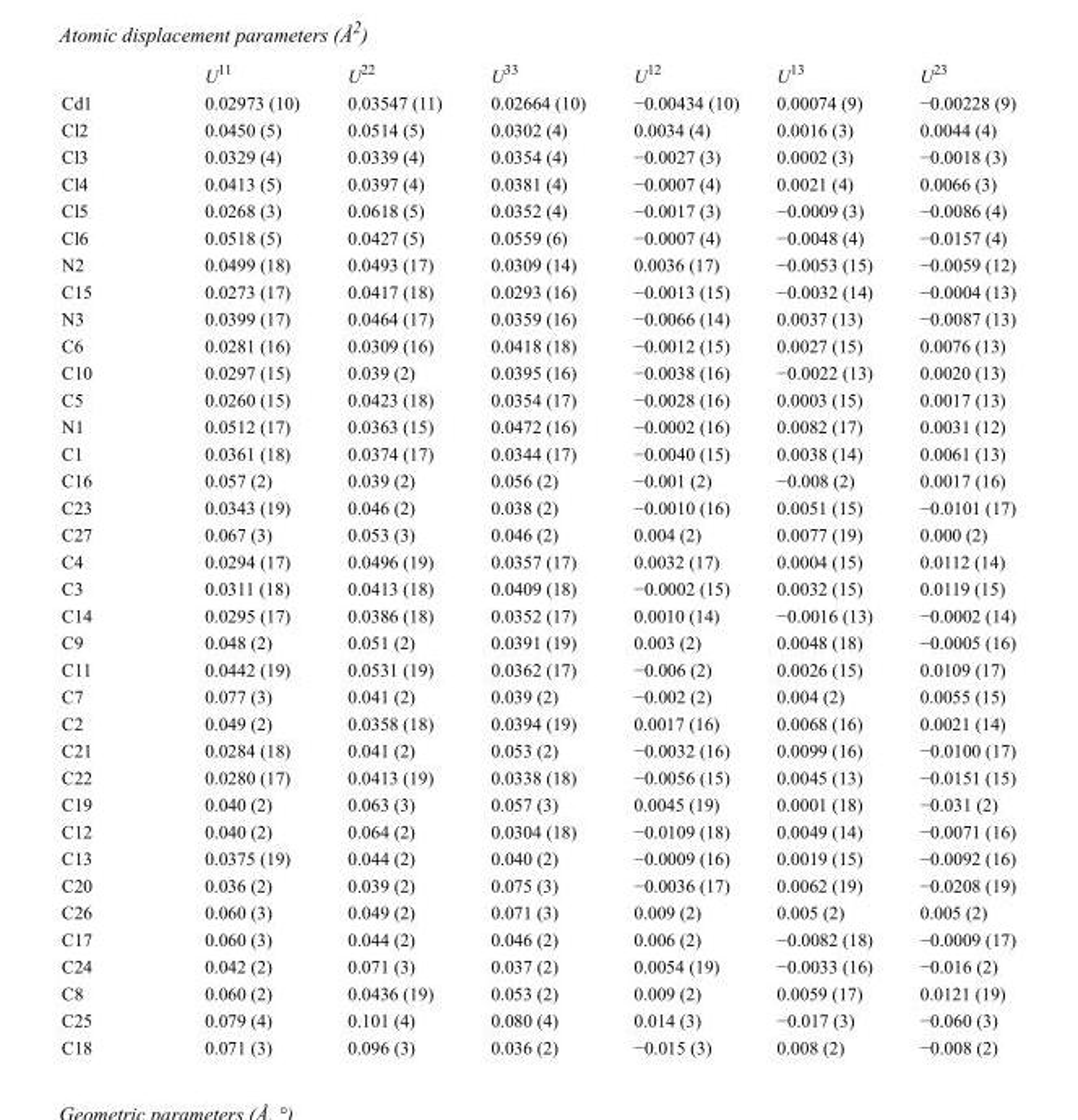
<table><thead><tr><td></td><td>U<sup>11</sup></td><td>U<sup>22</sup></td><td>U<sup>33</sup></td><td>U<sup>12</sup></td><td>U<sup>13</sup></td><td>U<sup>23</sup></td></tr></thead><tbody><tr><td>Cd1</td><td>0.02973 (10)</td><td>0.03547 (11)</td><td>0.02664 (10)</td><td>−0.00434 (10)</td><td>0.00074 (9)</td><td>−0.00228 (9)</td></tr><tr><td>Cl2</td><td>0.0450 (5)</td><td>0.0514 (5)</td><td>0.0302 (4)</td><td>0.0034 (4)</td><td>0.0016 (3)</td><td>0.0044 (4)</td></tr><tr><td>Cl3</td><td>0.0329 (4)</td><td>0.0339 (4)</td><td>0.0354 (4)</td><td>−0.0027 (3)</td><td>0.0002 (3)</td><td>−0.0018 (3)</td></tr><tr><td>Cl4</td><td>0.0413 (5)</td><td>0.0397 (4)</td><td>0.0381 (4)</td><td>−0.0007 (4)</td><td>0.0021 (4)</td><td>0.0066 (3)</td></tr><tr><td>Cl5</td><td>0.0268 (3)</td><td>0.0618 (5)</td><td>0.0352 (4)</td><td>−0.0017 (3)</td><td>−0.0009 (3)</td><td>−0.0086 (4)</td></tr><tr><td>Cl6</td><td>0.0518 (5)</td><td>0.0427 (5)</td><td>0.0559 (6)</td><td>−0.0007 (4)</td><td>−0.0048 (4)</td><td>−0.0157 (4)</td></tr><tr><td>N2</td><td>0.0499 (18)</td><td>0.0493 (17)</td><td>0.0309 (14)</td><td>0.0036 (17)</td><td>−0.0053 (15)</td><td>−0.0059 (12)</td></tr><tr><td>C15</td><td>0.0273 (17)</td><td>0.0417 (18)</td><td>0.0293 (16)</td><td>−0.0013 (15)</td><td>−0.0032 (14)</td><td>−0.0004 (13)</td></tr><tr><td>N3</td><td>0.0399 (17)</td><td>0.0464 (17)</td><td>0.0359 (16)</td><td>−0.0066 (14)</td><td>0.0037 (13)</td><td>−0.0087 (13)</td></tr><tr><td>C6</td><td>0.0281 (16)</td><td>0.0309 (16)</td><td>0.0418 (18)</td><td>−0.0012 (15)</td><td>0.0027 (15)</td><td>0.0076 (13)</td></tr><tr><td>C10</td><td>0.0297 (15)</td><td>0.039 (2)</td><td>0.0395 (16)</td><td>−0.0038 (16)</td><td>−0.0022 (13)</td><td>0.0020 (13)</td></tr><tr><td>C5</td><td>0.0260 (15)</td><td>0.0423 (18)</td><td>0.0354 (17)</td><td>−0.0028 (16)</td><td>0.0003 (15)</td><td>0.0017 (13)</td></tr><tr><td>N1</td><td>0.0512 (17)</td><td>0.0363 (15)</td><td>0.0472 (16)</td><td>−0.0002 (16)</td><td>0.0082 (17)</td><td>0.0031 (12)</td></tr><tr><td>C1</td><td>0.0361 (18)</td><td>0.0374 (17)</td><td>0.0344 (17)</td><td>−0.0040 (15)</td><td>0.0038 (14)</td><td>0.0061 (13)</td></tr><tr><td>C16</td><td>0.057 (2)</td><td>0.039 (2)</td><td>0.056 (2)</td><td>−0.001 (2)</td><td>−0.008 (2)</td><td>0.0017 (16)</td></tr><tr><td>C23</td><td>0.0343 (19)</td><td>0.046 (2)</td><td>0.038 (2)</td><td>−0.0010 (16)</td><td>0.0051 (15)</td><td>−0.0101 (17)</td></tr><tr><td>C27</td><td>0.067 (3)</td><td>0.053 (3)</td><td>0.046 (2)</td><td>0.004 (2)</td><td>0.0077 (19)</td><td>0.000 (2)</td></tr><tr><td>C4</td><td>0.0294 (17)</td><td>0.0496 (19)</td><td>0.0357 (17)</td><td>0.0032 (17)</td><td>0.0004 (15)</td><td>0.0112 (14)</td></tr><tr><td>C3</td><td>0.0311 (18)</td><td>0.0413 (18)</td><td>0.0409 (18)</td><td>−0.0002 (15)</td><td>0.0032 (15)</td><td>0.0119 (15)</td></tr><tr><td>C14</td><td>0.0295 (17)</td><td>0.0386 (18)</td><td>0.0352 (17)</td><td>0.0010 (14)</td><td>−0.0016 (13)</td><td>−0.0002 (14)</td></tr><tr><td>C9</td><td>0.048 (2)</td><td>0.051 (2)</td><td>0.0391 (19)</td><td>0.003 (2)</td><td>0.0048 (18)</td><td>−0.0005 (16)</td></tr><tr><td>C11</td><td>0.0442 (19)</td><td>0.0531 (19)</td><td>0.0362 (17)</td><td>−0.006 (2)</td><td>0.0026 (15)</td><td>0.0109 (17)</td></tr><tr><td>C7</td><td>0.077 (3)</td><td>0.041 (2)</td><td>0.039 (2)</td><td>−0.002 (2)</td><td>0.004 (2)</td><td>0.0055 (15)</td></tr><tr><td>C2</td><td>0.049 (2)</td><td>0.0358 (18)</td><td>0.0394 (19)</td><td>0.0017 (16)</td><td>0.0068 (16)</td><td>0.0021 (14)</td></tr><tr><td>C21</td><td>0.0284 (18)</td><td>0.041 (2)</td><td>0.053 (2)</td><td>−0.0032 (16)</td><td>0.0099 (16)</td><td>−0.0100 (17)</td></tr><tr><td>C22</td><td>0.0280 (17)</td><td>0.0413 (19)</td><td>0.0338 (18)</td><td>−0.0056 (15)</td><td>0.0045 (13)</td><td>−0.0151 (15)</td></tr><tr><td>C19</td><td>0.040 (2)</td><td>0.063 (3)</td><td>0.057 (3)</td><td>0.0045 (19)</td><td>0.0001 (18)</td><td>−0.031 (2)</td></tr><tr><td>C12</td><td>0.040 (2)</td><td>0.064 (2)</td><td>0.0304 (18)</td><td>−0.0109 (18)</td><td>0.0049 (14)</td><td>−0.0071 (16)</td></tr><tr><td>C13</td><td>0.0375 (19)</td><td>0.044 (2)</td><td>0.040 (2)</td><td>−0.0009 (16)</td><td>0.0019 (15)</td><td>−0.0092 (16)</td></tr><tr><td>C20</td><td>0.036 (2)</td><td>0.039 (2)</td><td>0.075 (3)</td><td>−0.0036 (17)</td><td>0.0062 (19)</td><td>−0.0208 (19)</td></tr><tr><td>C26</td><td>0.060 (3)</td><td>0.049 (2)</td><td>0.071 (3)</td><td>0.009 (2)</td><td>0.005 (2)</td><td>0.005 (2)</td></tr><tr><td>C17</td><td>0.060 (3)</td><td>0.044 (2)</td><td>0.046 (2)</td><td>0.006 (2)</td><td>−0.0082 (18)</td><td>−0.0009 (17)</td></tr><tr><td>C24</td><td>0.042 (2)</td><td>0.071 (3)</td><td>0.037 (2)</td><td>0.0054 (19)</td><td>−0.0033 (16)</td><td>−0.016 (2)</td></tr><tr><td>C8</td><td>0.060 (2)</td><td>0.0436 (19)</td><td>0.053 (2)</td><td>0.009 (2)</td><td>0.0059 (17)</td><td>0.0121 (19)</td></tr><tr><td>C25</td><td>0.079 (4)</td><td>0.101 (4)</td><td>0.080 (4)</td><td>0.014 (3)</td><td>−0.017 (3)</td><td>−0.060 (3)</td></tr><tr><td>C18</td><td>0.071 (3)</td><td>0.096 (3)</td><td>0.036 (2)</td><td>−0.015 (3)</td><td>0.008 (2)</td><td>−0.008 (2)</td></tr></tbody></table>